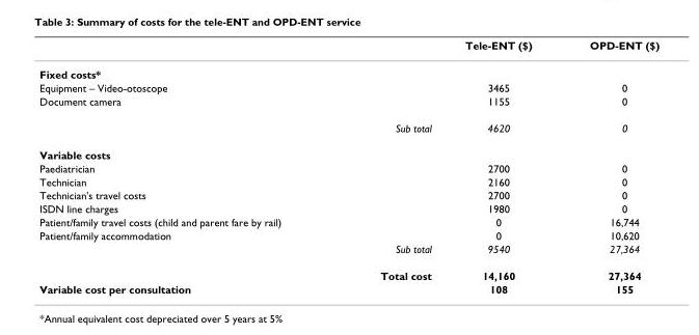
<table><thead><tr><td></td><td>Tele-ENT ($)</td><td>OPD-ENT ($)</td></tr></thead><tbody><tr><td colspan="3">Fixed costs*</td></tr><tr><td>Equipment – Video-otoscope</td><td>3465</td><td>0</td></tr><tr><td>Document camera</td><td>1155</td><td>0</td></tr><tr><td>Sub total</td><td>4620</td><td>0</td></tr><tr><td colspan="3">Variable costs</td></tr><tr><td>Paediatrician</td><td>2700</td><td>0</td></tr><tr><td>Technician</td><td>2160</td><td>0</td></tr><tr><td>Technician&#x27;s travel costs</td><td>2700</td><td>0</td></tr><tr><td>ISDN line charges</td><td>1980</td><td>0</td></tr><tr><td>Patient/family travel costs (child and parent fare by rail)</td><td>0</td><td>16,744</td></tr><tr><td>Patient/family accommodation</td><td>0</td><td>10,620</td></tr><tr><td>Sub total</td><td>9540</td><td>27,364</td></tr><tr><td>Total cost</td><td>14,160</td><td>27,364</td></tr><tr><td>Variable cost per consultation</td><td>108</td><td>155</td></tr></tbody></table>